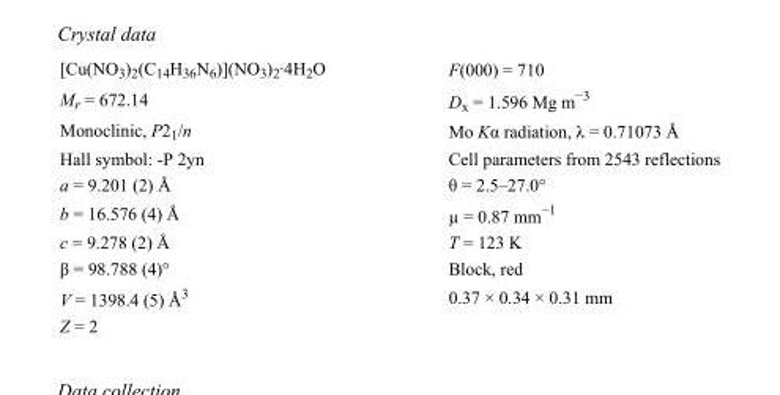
<table><tbody><tr><td>[Cu(NO<sub>3</sub>)<sub>2</sub>(C<sub>14</sub>H<sub>36</sub>N<sub>6</sub>)](NO<sub>3</sub>)<sub>2</sub>·4H<sub>2</sub>O</td><td>F(000) = 710</td></tr><tr><td>M<sub>r</sub> = 672.14</td><td>D<sub>x</sub> = 1.596 Mg m<sup>−3</sup></td></tr><tr><td>Monoclinic, P2<sub>1</sub>/n</td><td>Mo Kα radiation, λ = 0.71073 Å</td></tr><tr><td>Hall symbol: -P 2yn</td><td>Cell parameters from 2543 reflections</td></tr><tr><td>a = 9.201 (2) Å</td><td>θ = 2.5–27.0°</td></tr><tr><td>b = 16.576 (4) Å</td><td>µ = 0.87 mm<sup>−1</sup></td></tr><tr><td>c = 9.278 (2) Å</td><td>T = 123 K</td></tr><tr><td>β = 98.788 (4)°</td><td>Block, red</td></tr><tr><td>V = 1398.4 (5) Å<sup>3</sup></td><td>0.37 × 0.34 × 0.31 mm</td></tr><tr><td>Z = 2</td><td></td></tr></tbody></table>